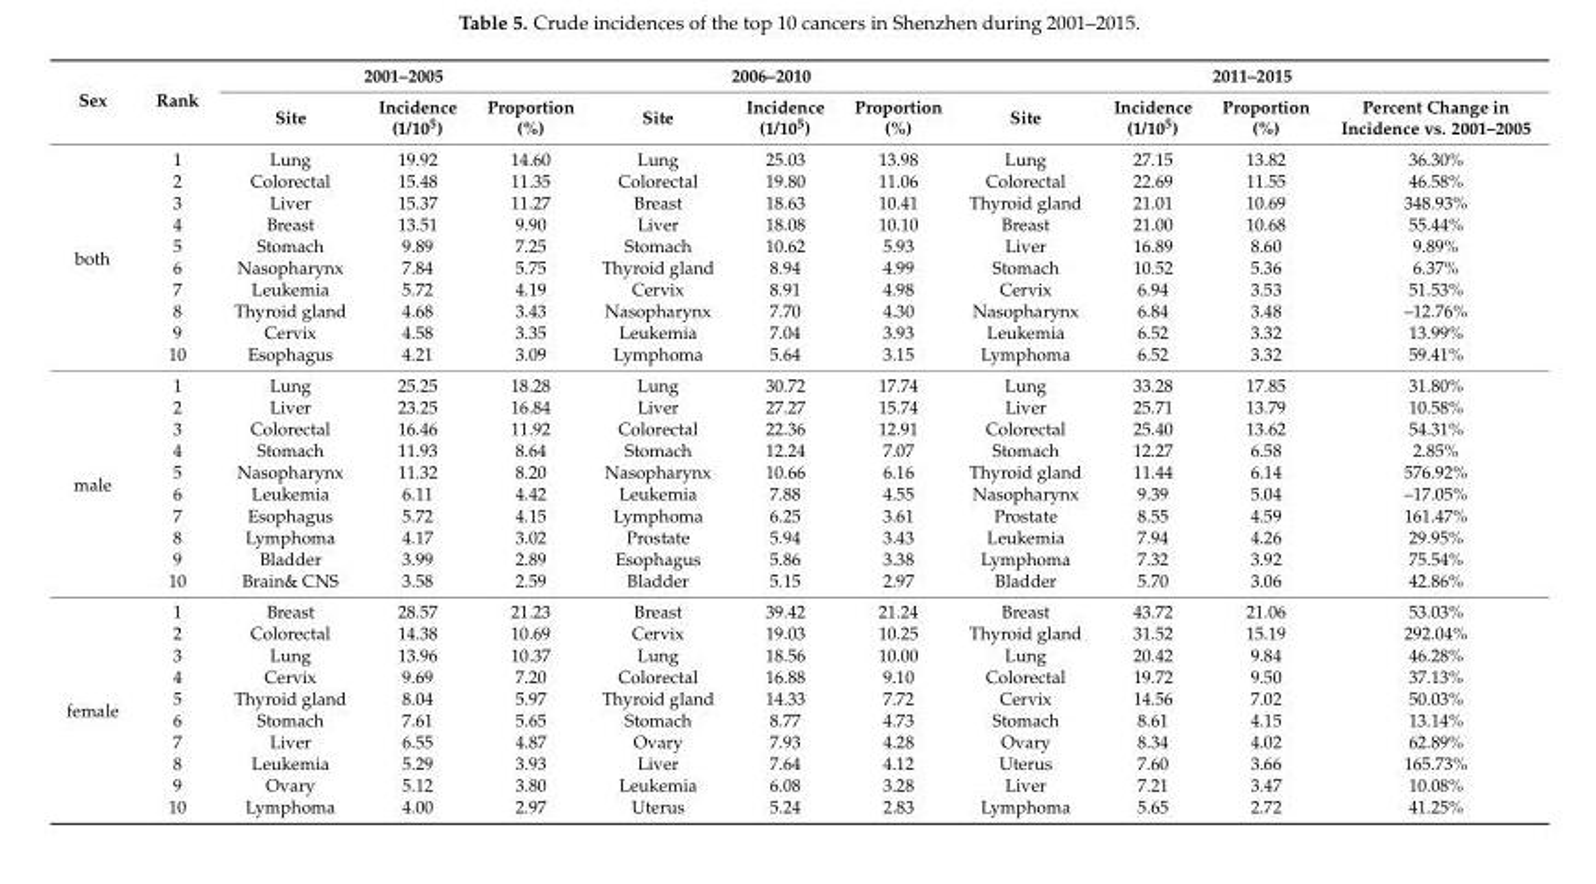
<table><thead><tr><td rowspan="2">Sex</td><td rowspan="2">Rank</td><td colspan="3">2001–2005</td><td colspan="3">2006–2010</td><td colspan="4">2011–2015</td></tr><tr><td>Site</td><td>Incidence (1/10<sup>5</sup>)</td><td>Proportion (%)</td><td>Site</td><td>Incidence (1/10<sup>5</sup>)</td><td>Proportion (%)</td><td>Site</td><td>Incidence (1/10<sup>5</sup>)</td><td>Proportion (%)</td><td>Percent Change in Incidence vs. 2001–2005</td></tr></thead><tbody><tr><td rowspan="10">both</td><td>1</td><td>Lung</td><td>19.92</td><td>14.60</td><td>Lung</td><td>25.03</td><td>13.98</td><td>Lung</td><td>27.15</td><td>13.82</td><td>36.30%</td></tr><tr><td>2</td><td>Colorectal</td><td>15.48</td><td>11.35</td><td>Colorectal</td><td>19.80</td><td>11.06</td><td>Colorectal</td><td>22.69</td><td>11.55</td><td>46.58%</td></tr><tr><td>3</td><td>Liver</td><td>15.37</td><td>11.27</td><td>Breast</td><td>18.63</td><td>10.41</td><td>Thyroid gland</td><td>21.01</td><td>10.69</td><td>348.93%</td></tr><tr><td>4</td><td>Breast</td><td>13.51</td><td>9.90</td><td>Liver</td><td>18.08</td><td>10.10</td><td>Breast</td><td>21.00</td><td>10.68</td><td>55.44%</td></tr><tr><td>5</td><td>Stomach</td><td>9.89</td><td>7.25</td><td>Stomach</td><td>10.62</td><td>5.93</td><td>Liver</td><td>16.89</td><td>8.60</td><td>9.89%</td></tr><tr><td>6</td><td>Nasopharynx</td><td>7.84</td><td>5.75</td><td>Thyroid gland</td><td>8.94</td><td>4.99</td><td>Stomach</td><td>10.52</td><td>5.36</td><td>6.37%</td></tr><tr><td>7</td><td>Leukemia</td><td>5.72</td><td>4.19</td><td>Cervix</td><td>8.91</td><td>4.98</td><td>Cervix</td><td>6.94</td><td>3.53</td><td>51.53%</td></tr><tr><td>8</td><td>Thyroid gland</td><td>4.68</td><td>3.43</td><td>Nasopharynx</td><td>7.70</td><td>4.30</td><td>Nasopharynx</td><td>6.84</td><td>3.48</td><td>–12.76%</td></tr><tr><td>9</td><td>Cervix</td><td>4.58</td><td>3.35</td><td>Leukemia</td><td>7.04</td><td>3.93</td><td>Leukemia</td><td>6.52</td><td>3.32</td><td>13.99%</td></tr><tr><td>10</td><td>Esophagus</td><td>4.21</td><td>3.09</td><td>Lymphoma</td><td>5.64</td><td>3.15</td><td>Lymphoma</td><td>6.52</td><td>3.32</td><td>59.41%</td></tr><tr><td rowspan="10">male</td><td>1</td><td>Lung</td><td>25.25</td><td>18.28</td><td>Lung</td><td>30.72</td><td>17.74</td><td>Lung</td><td>33.28</td><td>17.85</td><td>31.80%</td></tr><tr><td>2</td><td>Liver</td><td>23.25</td><td>16.84</td><td>Liver</td><td>27.27</td><td>15.74</td><td>Liver</td><td>25.71</td><td>13.79</td><td>10.58%</td></tr><tr><td>3</td><td>Colorectal</td><td>16.46</td><td>11.92</td><td>Colorectal</td><td>22.36</td><td>12.91</td><td>Colorectal</td><td>25.40</td><td>13.62</td><td>54.31%</td></tr><tr><td>4</td><td>Stomach</td><td>11.93</td><td>8.64</td><td>Stomach</td><td>12.24</td><td>7.07</td><td>Stomach</td><td>12.27</td><td>6.58</td><td>2.85%</td></tr><tr><td>5</td><td>Nasopharynx</td><td>11.32</td><td>8.20</td><td>Nasopharynx</td><td>10.66</td><td>6.16</td><td>Thyroid gland</td><td>11.44</td><td>6.14</td><td>576.92%</td></tr><tr><td>6</td><td>Leukemia</td><td>6.11</td><td>4.42</td><td>Leukemia</td><td>7.88</td><td>4.55</td><td>Nasopharynx</td><td>9.39</td><td>5.04</td><td>–17.05%</td></tr><tr><td>7</td><td>Esophagus</td><td>5.72</td><td>4.15</td><td>Lymphoma</td><td>6.25</td><td>3.61</td><td>Prostate</td><td>8.55</td><td>4.59</td><td>161.47%</td></tr><tr><td>8</td><td>Lymphoma</td><td>4.17</td><td>3.02</td><td>Prostate</td><td>5.94</td><td>3.43</td><td>Leukemia</td><td>7.94</td><td>4.26</td><td>29.95%</td></tr><tr><td>9</td><td>Bladder</td><td>3.99</td><td>2.89</td><td>Esophagus</td><td>5.86</td><td>3.38</td><td>Lymphoma</td><td>7.32</td><td>3.92</td><td>75.54%</td></tr><tr><td>10</td><td>Brain&amp; CNS</td><td>3.58</td><td>2.59</td><td>Bladder</td><td>5.15</td><td>2.97</td><td>Bladder</td><td>5.70</td><td>3.06</td><td>42.86%</td></tr><tr><td rowspan="10">female</td><td>1</td><td>Breast</td><td>28.57</td><td>21.23</td><td>Breast</td><td>39.42</td><td>21.24</td><td>Breast</td><td>43.72</td><td>21.06</td><td>53.03%</td></tr><tr><td>2</td><td>Colorectal</td><td>14.38</td><td>10.69</td><td>Cervix</td><td>19.03</td><td>10.25</td><td>Thyroid gland</td><td>31.52</td><td>15.19</td><td>292.04%</td></tr><tr><td>3</td><td>Lung</td><td>13.96</td><td>10.37</td><td>Lung</td><td>18.56</td><td>10.00</td><td>Lung</td><td>20.42</td><td>9.84</td><td>46.28%</td></tr><tr><td>4</td><td>Cervix</td><td>9.69</td><td>7.20</td><td>Colorectal</td><td>16.88</td><td>9.10</td><td>Colorectal</td><td>19.72</td><td>9.50</td><td>37.13%</td></tr><tr><td>5</td><td>Thyroid gland</td><td>8.04</td><td>5.97</td><td>Thyroid gland</td><td>14.33</td><td>7.72</td><td>Cervix</td><td>14.56</td><td>7.02</td><td>50.03%</td></tr><tr><td>6</td><td>Stomach</td><td>7.61</td><td>5.65</td><td>Stomach</td><td>8.77</td><td>4.73</td><td>Stomach</td><td>8.61</td><td>4.15</td><td>13.14%</td></tr><tr><td>7</td><td>Liver</td><td>6.55</td><td>4.87</td><td>Ovary</td><td>7.93</td><td>4.28</td><td>Ovary</td><td>8.34</td><td>4.02</td><td>62.89%</td></tr><tr><td>8</td><td>Leukemia</td><td>5.29</td><td>3.93</td><td>Liver</td><td>7.64</td><td>4.12</td><td>Uterus</td><td>7.60</td><td>3.66</td><td>165.73%</td></tr><tr><td>9</td><td>Ovary</td><td>5.12</td><td>3.80</td><td>Leukemia</td><td>6.08</td><td>3.28</td><td>Liver</td><td>7.21</td><td>3.47</td><td>10.08%</td></tr><tr><td>10</td><td>Lymphoma</td><td>4.00</td><td>2.97</td><td>Uterus</td><td>5.24</td><td>2.83</td><td>Lymphoma</td><td>5.65</td><td>2.72</td><td>41.25%</td></tr></tbody></table>